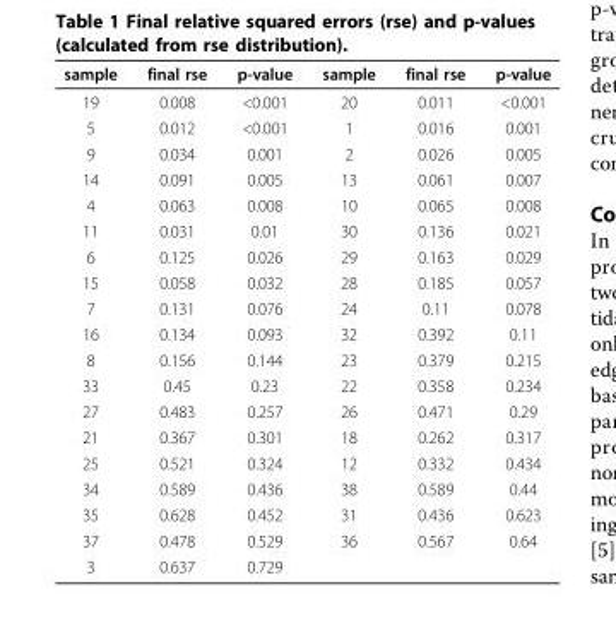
<table><thead><tr><td>sample</td><td>final rse</td><td>p-value</td><td>sample</td><td>final rse</td><td>p-value</td></tr></thead><tbody><tr><td>19</td><td>0.008</td><td>&lt;0.001</td><td>20</td><td>0.011</td><td>&lt;0.001</td></tr><tr><td>5</td><td>0.012</td><td>&lt;0.001</td><td>1</td><td>0.016</td><td>0.001</td></tr><tr><td>9</td><td>0.034</td><td>0.001</td><td>2</td><td>0.026</td><td>0.005</td></tr><tr><td>14</td><td>0.091</td><td>0.005</td><td>13</td><td>0.061</td><td>0.007</td></tr><tr><td>4</td><td>0.063</td><td>0.008</td><td>10</td><td>0.065</td><td>0.008</td></tr><tr><td>11</td><td>0.031</td><td>0.01</td><td>30</td><td>0.136</td><td>0.021</td></tr><tr><td>6</td><td>0.125</td><td>0.026</td><td>29</td><td>0.163</td><td>0.029</td></tr><tr><td>15</td><td>0.058</td><td>0.032</td><td>28</td><td>0.185</td><td>0.057</td></tr><tr><td>7</td><td>0.131</td><td>0.076</td><td>24</td><td>0.11</td><td>0.078</td></tr><tr><td>16</td><td>0.134</td><td>0.093</td><td>32</td><td>0.392</td><td>0.11</td></tr><tr><td>8</td><td>0.156</td><td>0.144</td><td>23</td><td>0.379</td><td>0.215</td></tr><tr><td>33</td><td>0.45</td><td>0.23</td><td>22</td><td>0.358</td><td>0.234</td></tr><tr><td>27</td><td>0.483</td><td>0.257</td><td>26</td><td>0.471</td><td>0.29</td></tr><tr><td>21</td><td>0.367</td><td>0.301</td><td>18</td><td>0.262</td><td>0.317</td></tr><tr><td>25</td><td>0.521</td><td>0.324</td><td>12</td><td>0.332</td><td>0.434</td></tr><tr><td>34</td><td>0.589</td><td>0.436</td><td>38</td><td>0.589</td><td>0.44</td></tr><tr><td>35</td><td>0.628</td><td>0.452</td><td>31</td><td>0.436</td><td>0.623</td></tr><tr><td>37</td><td>0.478</td><td>0.529</td><td>36</td><td>0.567</td><td>0.64</td></tr><tr><td>3</td><td>0.637</td><td>0.729</td><td></td><td></td><td></td></tr></tbody></table>